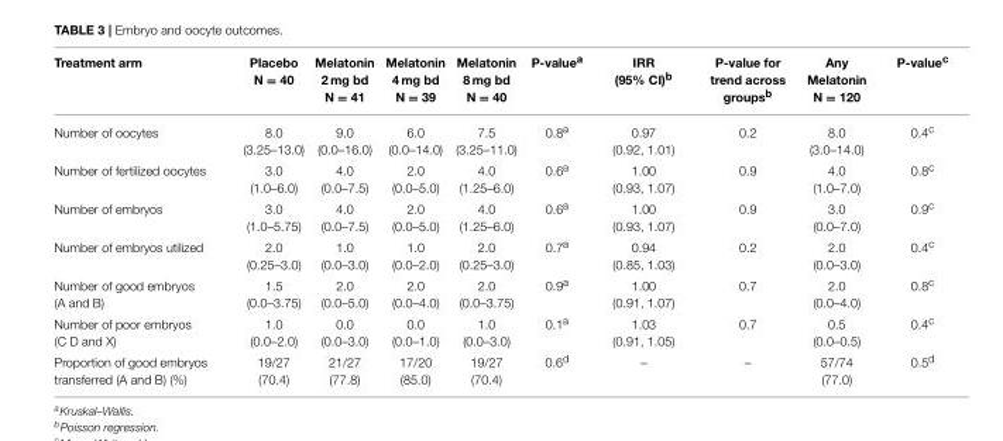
<table><thead><tr><td>Treatment arm</td><td>Placebo N = 40</td><td>Melatonin 2 mg bd N = 41</td><td>Melatonin 4 mg bd N = 39</td><td>Melatonin 8 mg bd N = 40</td><td>P-value<sup>a</sup></td><td>IRR (95% CI)<sup>b</sup></td><td>P-value for trend across groups<sup>b</sup></td><td>Any Melatonin N = 120</td><td>P-value<sup>c</sup></td></tr></thead><tbody><tr><td>Number of oocytes</td><td>8.0 (3.25–13.0)</td><td>9.0 (0.0–16.0)</td><td>6.0 (0.0–14.0)</td><td>7.5 (3.25–11.0)</td><td>0.8<sup>a</sup></td><td>0.97 (0.92, 1.01)</td><td>0.2</td><td>8.0 (3.0–14.0)</td><td>0.4<sup>c</sup></td></tr><tr><td>Number of fertilized oocytes</td><td>3.0 (1.0–6.0)</td><td>4.0 (0.0–7.5)</td><td>2.0 (0.0–5.0)</td><td>4.0 (1.25–6.0)</td><td>0.6<sup>a</sup></td><td>1.00 (0.93, 1.07)</td><td>0.9</td><td>4.0 (1.0–7.0)</td><td>0.8<sup>c</sup></td></tr><tr><td>Number of embryos</td><td>3.0 (1.0–5.75)</td><td>4.0 (0.0–7.5)</td><td>2.0 (0.0–5.0)</td><td>4.0 (1.25–6.0)</td><td>0.6<sup>a</sup></td><td>1.00 (0.93, 1.07)</td><td>0.9</td><td>3.0 (0.0–7.0)</td><td>0.9<sup>c</sup></td></tr><tr><td>Number of embryos utilized</td><td>2.0 (0.25–3.0)</td><td>1.0 (0.0–3.0)</td><td>1.0 (0.0–2.0)</td><td>2.0 (0.25–3.0)</td><td>0.7<sup>a</sup></td><td>0.94 (0.85, 1.03)</td><td>0.2</td><td>2.0 (0.0–3.0)</td><td>0.4<sup>c</sup></td></tr><tr><td>Number of good embryos (A and B)</td><td>1.5 (0.0–3.75)</td><td>2.0 (0.0–5.0)</td><td>2.0 (0.0–4.0)</td><td>2.0 (0.0–3.75)</td><td>0.9<sup>a</sup></td><td>1.00 (0.91, 1.07)</td><td>0.7</td><td>2.0 (0.0–4.0)</td><td>0.8<sup>c</sup></td></tr><tr><td>Number of poor embryos (C D and X)</td><td>1.0 (0.0–2.0)</td><td>0.0 (0.0–3.0)</td><td>0.0 (0.0–1.0)</td><td>1.0 (0.0–3.0)</td><td>0.1<sup>a</sup></td><td>1.03 (0.91, 1.05)</td><td>0.7</td><td>0.5 (0.0–0.5)</td><td>0.4<sup>c</sup></td></tr><tr><td>Proportion of good embryos transferred (A and B) (%)</td><td>19/27 (70.4)</td><td>21/27 (77.8)</td><td>17/20 (85.0)</td><td>19/27 (70.4)</td><td>0.6<sup>d</sup></td><td>–</td><td>–</td><td>57/74 (77.0)</td><td>0.5<sup>d</sup></td></tr></tbody></table>